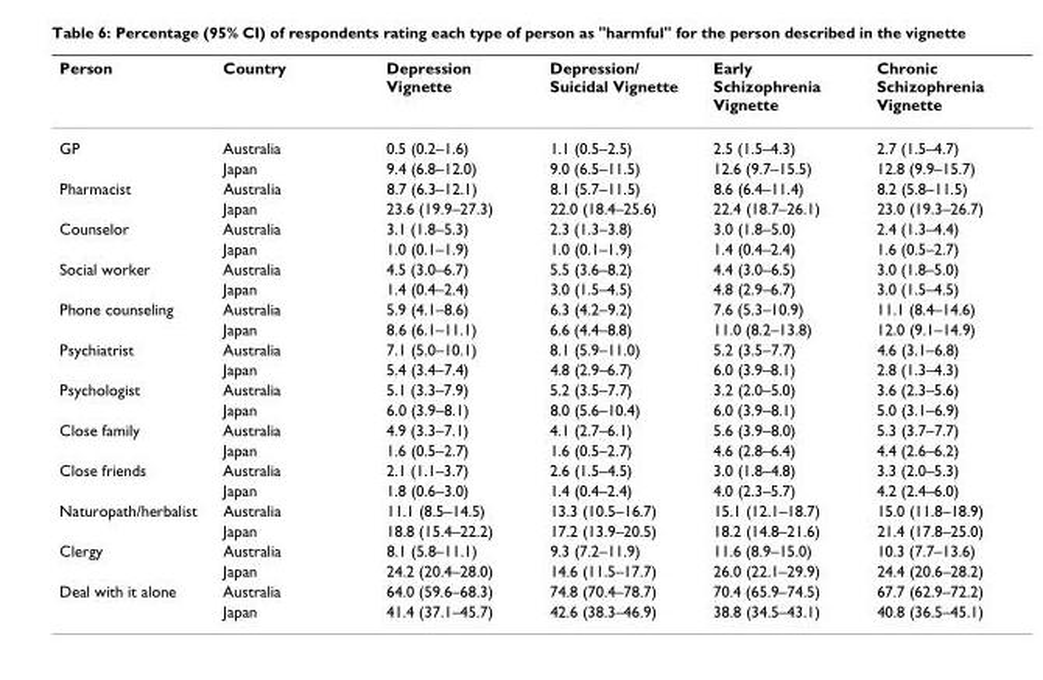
<table><thead><tr><td>Person</td><td>Country</td><td>Depression Vignette</td><td>Depression/ Suicidal Vignette</td><td>Early Schizophrenia Vignette</td><td>Chronic Schizophrenia Vignette</td></tr></thead><tbody><tr><td rowspan="2">GP</td><td>Australia</td><td>0.5 (0.2–1.6)</td><td>1.1 (0.5–2.5)</td><td>2.5 (1.5–4.3)</td><td>2.7 (1.5–4.7)</td></tr><tr><td>Japan</td><td>9.4 (6.8–12.0)</td><td>9.0 (6.5–11.5)</td><td>12.6 (9.7–15.5)</td><td>12.8 (9.9–15.7)</td></tr><tr><td rowspan="2">Pharmacist</td><td>Australia</td><td>8.7 (6.3–12.1)</td><td>8.1 (5.7–11.5)</td><td>8.6 (6.4–11.4)</td><td>8.2 (5.8–11.5)</td></tr><tr><td>Japan</td><td>23.6 (19.9–27.3)</td><td>22.0 (18.4–25.6)</td><td>22.4 (18.7–26.1)</td><td>23.0 (19.3–26.7)</td></tr><tr><td rowspan="2">Counselor</td><td>Australia</td><td>3.1 (1.8–5.3)</td><td>2.3 (1.3–3.8)</td><td>3.0 (1.8–5.0)</td><td>2.4 (1.3–4.4)</td></tr><tr><td>Japan</td><td>1.0 (0.1–1.9)</td><td>1.0 (0.1–1.9)</td><td>1.4 (0.4–2.4)</td><td>1.6 (0.5–2.7)</td></tr><tr><td rowspan="2">Social worker</td><td>Australia</td><td>4.5 (3.0–6.7)</td><td>5.5 (3.6–8.2)</td><td>4.4 (3.0–6.5)</td><td>3.0 (1.8–5.0)</td></tr><tr><td>Japan</td><td>1.4 (0.4–2.4)</td><td>3.0 (1.5–4.5)</td><td>4.8 (2.9–6.7)</td><td>3.0 (1.5–4.5)</td></tr><tr><td rowspan="2">Phone counseling</td><td>Australia</td><td>5.9 (4.1–8.6)</td><td>6.3 (4.2–9.2)</td><td>7.6 (5.3–10.9)</td><td>11.1 (8.4–14.6)</td></tr><tr><td>Japan</td><td>8.6 (6.1–11.1)</td><td>6.6 (4.4–8.8)</td><td>11.0 (8.2–13.8)</td><td>12.0 (9.1–14.9)</td></tr><tr><td rowspan="2">Psychiatrist</td><td>Australia</td><td>7.1 (5.0–10.1)</td><td>8.1 (5.9–11.0)</td><td>5.2 (3.5–7.7)</td><td>4.6 (3.1–6.8)</td></tr><tr><td>Japan</td><td>5.4 (3.4–7.4)</td><td>4.8 (2.9–6.7)</td><td>6.0 (3.9–8.1)</td><td>2.8 (1.3–4.3)</td></tr><tr><td rowspan="2">Psychologist</td><td>Australia</td><td>5.1 (3.3–7.9)</td><td>5.2 (3.5–7.7)</td><td>3.2 (2.0–5.0)</td><td>3.6 (2.3–5.6)</td></tr><tr><td>Japan</td><td>6.0 (3.9–8.1)</td><td>8.0 (5.6–10.4)</td><td>6.0 (3.9–8.1)</td><td>5.0 (3.1–6.9)</td></tr><tr><td rowspan="2">Close family</td><td>Australia</td><td>4.9 (3.3–7.1)</td><td>4.1 (2.7–6.1)</td><td>5.6 (3.9–8.0)</td><td>5.3 (3.7–7.7)</td></tr><tr><td>Japan</td><td>1.6 (0.5–2.7)</td><td>1.6 (0.5–2.7)</td><td>4.6 (2.8–6.4)</td><td>4.4 (2.6–6.2)</td></tr><tr><td rowspan="2">Close friends</td><td>Australia</td><td>2.1 (1.1–3.7)</td><td>2.6 (1.5–4.5)</td><td>3.0 (1.8–4.8)</td><td>3.3 (2.0–5.3)</td></tr><tr><td>Japan</td><td>1.8 (0.6–3.0)</td><td>1.4 (0.4–2.4)</td><td>4.0 (2.3–5.7)</td><td>4.2 (2.4–6.0)</td></tr><tr><td rowspan="2">Naturopath/herbalist</td><td>Australia</td><td>11.1 (8.5–14.5)</td><td>13.3 (10.5–16.7)</td><td>15.1 (12.1–18.7)</td><td>15.0 (11.8–18.9)</td></tr><tr><td>Japan</td><td>18.8 (15.4–22.2)</td><td>17.2 (13.9–20.5)</td><td>18.2 (14.8–21.6)</td><td>21.4 (17.8–25.0)</td></tr><tr><td rowspan="2">Clergy</td><td>Australia</td><td>8.1 (5.8–11.1)</td><td>9.3 (7.2–11.9)</td><td>11.6 (8.9–15.0)</td><td>10.3 (7.7–13.6)</td></tr><tr><td>Japan</td><td>24.2 (20.4–28.0)</td><td>14.6 (11.5–17.7)</td><td>26.0 (22.1–29.9)</td><td>24.4 (20.6–28.2)</td></tr><tr><td rowspan="2">Deal with it alone</td><td>Australia</td><td>64.0 (59.6–68.3)</td><td>74.8 (70.4–78.7)</td><td>70.4 (65.9–74.5)</td><td>67.7 (62.9–72.2)</td></tr><tr><td>Japan</td><td>41.4 (37.1–45.7)</td><td>42.6 (38.3–46.9)</td><td>38.8 (34.5–43.1)</td><td>40.8 (36.5–45.1)</td></tr></tbody></table>